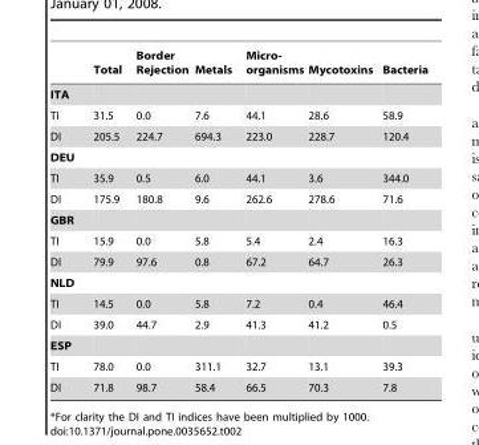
<table><thead><tr><td></td><td>Total</td><td>Border Rejection</td><td>Metals</td><td>Micro- organisms</td><td>Mycotoxins</td><td>Bacteria</td></tr></thead><tbody><tr><td colspan="7">ITA</td></tr><tr><td>TI</td><td>31.5</td><td>0.0</td><td>7.6</td><td>44.1</td><td>28.6</td><td>58.9</td></tr><tr><td>DI</td><td>205.5</td><td>224.7</td><td>694.3</td><td>223.0</td><td>228.7</td><td>120.4</td></tr><tr><td colspan="7">DEU</td></tr><tr><td>TI</td><td>35.9</td><td>0.5</td><td>6.0</td><td>44.1</td><td>3.6</td><td>344.0</td></tr><tr><td>DI</td><td>175.9</td><td>180.8</td><td>9.6</td><td>262.6</td><td>278.6</td><td>71.6</td></tr><tr><td colspan="7">GBR</td></tr><tr><td>TI</td><td>15.9</td><td>0.0</td><td>5.8</td><td>5.4</td><td>2.4</td><td>16.3</td></tr><tr><td>DI</td><td>79.9</td><td>97.6</td><td>0.8</td><td>67.2</td><td>64.7</td><td>26.3</td></tr><tr><td colspan="7">NLD</td></tr><tr><td>TI</td><td>14.5</td><td>0.0</td><td>5.8</td><td>7.2</td><td>0.4</td><td>46.4</td></tr><tr><td>DI</td><td>39.0</td><td>44.7</td><td>2.9</td><td>41.3</td><td>41.2</td><td>0.5</td></tr><tr><td colspan="7">ESP</td></tr><tr><td>TI</td><td>78.0</td><td>0.0</td><td>311.1</td><td>32.7</td><td>13.1</td><td>39.3</td></tr><tr><td>DI</td><td>71.8</td><td>98.7</td><td>58.4</td><td>66.5</td><td>70.3</td><td>7.8</td></tr></tbody></table>